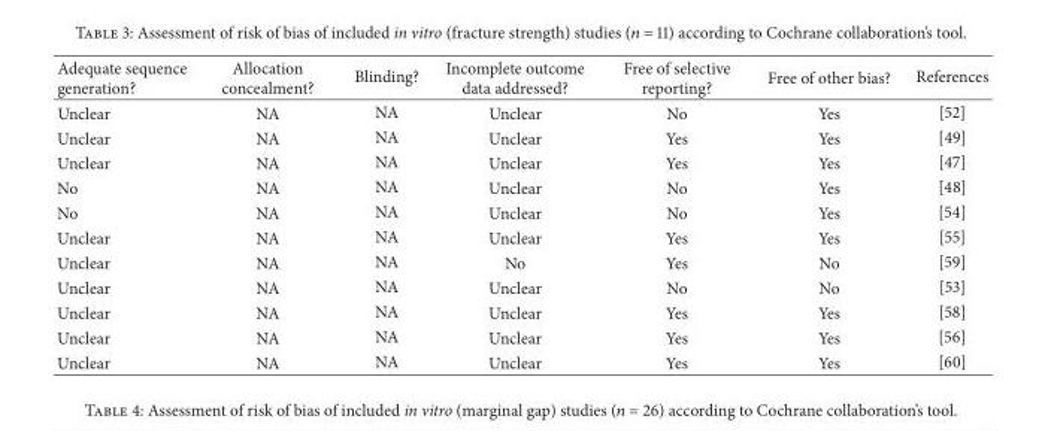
<table><thead><tr><td>Adequate sequence generation?</td><td>Allocation concealment?</td><td>Blinding?</td><td>Incomplete outcome data addressed?</td><td>Free of selective reporting?</td><td>Free of other bias?</td><td>References</td></tr></thead><tbody><tr><td>Unclear</td><td>NA</td><td>NA</td><td>Unclear</td><td>No</td><td>Yes</td><td>[52]</td></tr><tr><td>Unclear</td><td>NA</td><td>NA</td><td>Unclear</td><td>Yes</td><td>Yes</td><td>[49]</td></tr><tr><td>Unclear</td><td>NA</td><td>NA</td><td>Unclear</td><td>Yes</td><td>Yes</td><td>[47]</td></tr><tr><td>No</td><td>NA</td><td>NA</td><td>Unclear</td><td>No</td><td>Yes</td><td>[48]</td></tr><tr><td>No</td><td>NA</td><td>NA</td><td>Unclear</td><td>No</td><td>Yes</td><td>[54]</td></tr><tr><td>Unclear</td><td>NA</td><td>NA</td><td>Unclear</td><td>Yes</td><td>Yes</td><td>[55]</td></tr><tr><td>Unclear</td><td>NA</td><td>NA</td><td>No</td><td>Yes</td><td>No</td><td>[59]</td></tr><tr><td>Unclear</td><td>NA</td><td>NA</td><td>Unclear</td><td>No</td><td>No</td><td>[53]</td></tr><tr><td>Unclear</td><td>NA</td><td>NA</td><td>Unclear</td><td>Yes</td><td>Yes</td><td>[58]</td></tr><tr><td>Unclear</td><td>NA</td><td>NA</td><td>Unclear</td><td>Yes</td><td>Yes</td><td>[56]</td></tr><tr><td>Unclear</td><td>NA</td><td>NA</td><td>Unclear</td><td>Yes</td><td>Yes</td><td>[60]</td></tr></tbody></table>